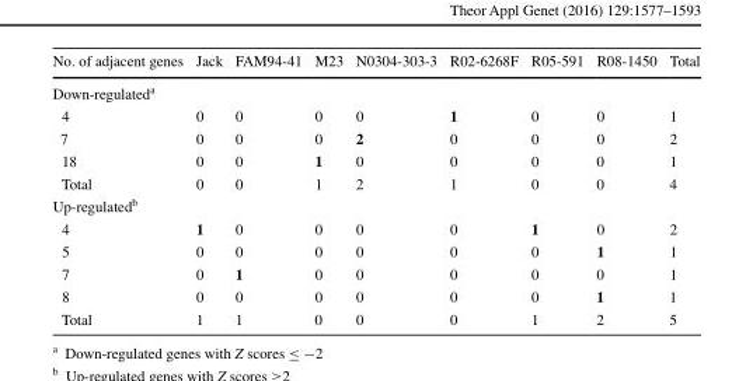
<table><thead><tr><td>No. of adjacent genes</td><td>Jack</td><td>FAM94-41</td><td>M23</td><td>N0304-303-3</td><td>R02-6268F</td><td>R05-591</td><td>R08-1450</td><td>Total</td></tr></thead><tbody><tr><td colspan="9">Down-regulated<sup>a</sup></td></tr><tr><td>4</td><td>0</td><td>0</td><td>0</td><td>0</td><td>1</td><td>0</td><td>0</td><td>1</td></tr><tr><td>7</td><td>0</td><td>0</td><td>0</td><td>2</td><td>0</td><td>0</td><td>0</td><td>2</td></tr><tr><td>18</td><td>0</td><td>0</td><td>1</td><td>0</td><td>0</td><td>0</td><td>0</td><td>1</td></tr><tr><td>Total</td><td>0</td><td>0</td><td>1</td><td>2</td><td>1</td><td>0</td><td>0</td><td>4</td></tr><tr><td colspan="9">Up-regulated<sup>b</sup></td></tr><tr><td>4</td><td>1</td><td>0</td><td>0</td><td>0</td><td>0</td><td>1</td><td>0</td><td>2</td></tr><tr><td>5</td><td>0</td><td>0</td><td>0</td><td>0</td><td>0</td><td>0</td><td>1</td><td>1</td></tr><tr><td>7</td><td>0</td><td>1</td><td>0</td><td>0</td><td>0</td><td>0</td><td>0</td><td>1</td></tr><tr><td>8</td><td>0</td><td>0</td><td>0</td><td>0</td><td>0</td><td>0</td><td>1</td><td>1</td></tr><tr><td>Total</td><td>1</td><td>1</td><td>0</td><td>0</td><td>0</td><td>1</td><td>2</td><td>5</td></tr></tbody></table>